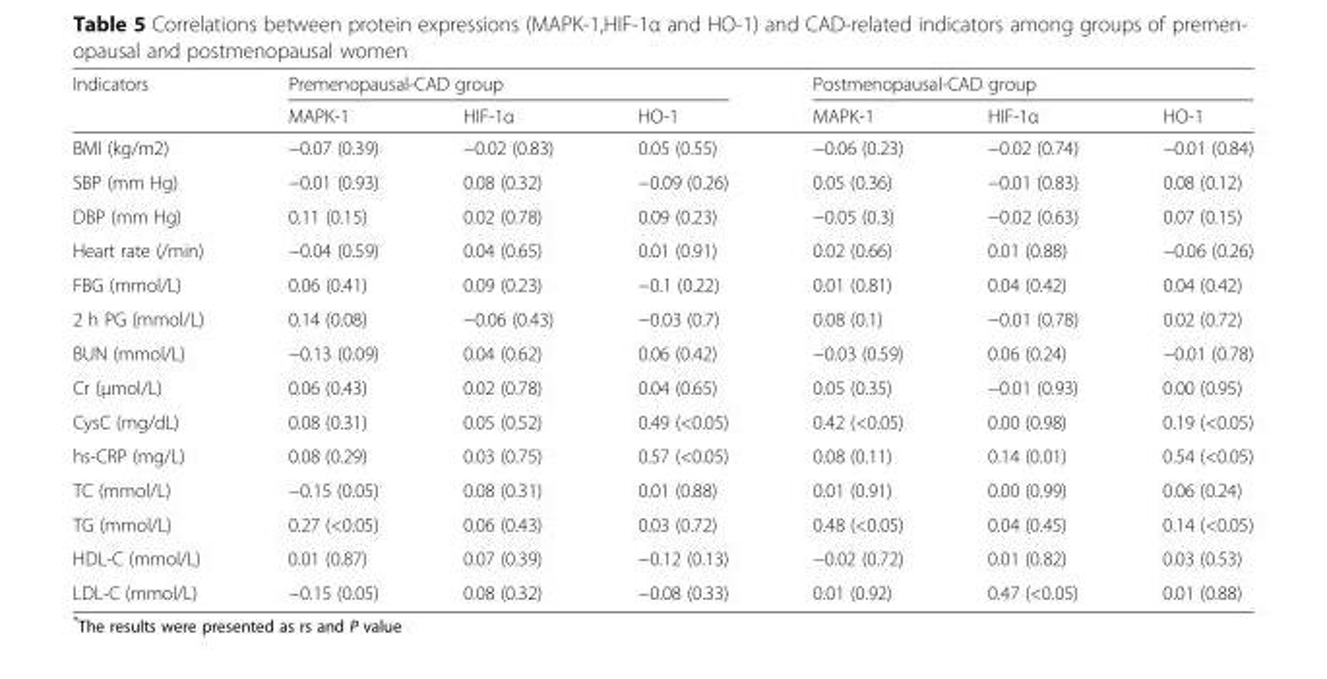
<table><thead><tr><td rowspan="2">Indicators</td><td colspan="3">Premenopausal-CAD group</td><td colspan="3">Postmenopausal-CAD group</td></tr><tr><td>MAPK-1</td><td>HIF-1α</td><td>HO-1</td><td>MAPK-1</td><td>HIF-1α</td><td>HO-1</td></tr></thead><tbody><tr><td>BMI (kg/m2)</td><td>−0.07 (0.39)</td><td>−0.02 (0.83)</td><td>0.05 (0.55)</td><td>−0.06 (0.23)</td><td>−0.02 (0.74)</td><td>−0.01 (0.84)</td></tr><tr><td>SBP (mm Hg)</td><td>−0.01 (0.93)</td><td>0.08 (0.32)</td><td>−0.09 (0.26)</td><td>0.05 (0.36)</td><td>−0.01 (0.83)</td><td>0.08 (0.12)</td></tr><tr><td>DBP (mm Hg)</td><td>0.11 (0.15)</td><td>0.02 (0.78)</td><td>0.09 (0.23)</td><td>−0.05 (0.3)</td><td>−0.02 (0.63)</td><td>0.07 (0.15)</td></tr><tr><td>Heart rate (/min)</td><td>−0.04 (0.59)</td><td>0.04 (0.65)</td><td>0.01 (0.91)</td><td>0.02 (0.66)</td><td>0.01 (0.88)</td><td>−0.06 (0.26)</td></tr><tr><td>FBG (mmol/L)</td><td>0.06 (0.41)</td><td>0.09 (0.23)</td><td>−0.1 (0.22)</td><td>0.01 (0.81)</td><td>0.04 (0.42)</td><td>0.04 (0.42)</td></tr><tr><td>2 h PG (mmol/L)</td><td>0.14 (0.08)</td><td>−0.06 (0.43)</td><td>−0.03 (0.7)</td><td>0.08 (0.1)</td><td>−0.01 (0.78)</td><td>0.02 (0.72)</td></tr><tr><td>BUN (mmol/L)</td><td>−0.13 (0.09)</td><td>0.04 (0.62)</td><td>0.06 (0.42)</td><td>−0.03 (0.59)</td><td>0.06 (0.24)</td><td>−0.01 (0.78)</td></tr><tr><td>Cr (μmol/L)</td><td>0.06 (0.43)</td><td>0.02 (0.78)</td><td>0.04 (0.65)</td><td>0.05 (0.35)</td><td>−0.01 (0.93)</td><td>0.00 (0.95)</td></tr><tr><td>CysC (mg/dL)</td><td>0.08 (0.31)</td><td>0.05 (0.52)</td><td>0.49 (&lt;0.05)</td><td>0.42 (&lt;0.05)</td><td>0.00 (0.98)</td><td>0.19 (&lt;0.05)</td></tr><tr><td>hs-CRP (mg/L)</td><td>0.08 (0.29)</td><td>0.03 (0.75)</td><td>0.57 (&lt;0.05)</td><td>0.08 (0.11)</td><td>0.14 (0.01)</td><td>0.54 (&lt;0.05)</td></tr><tr><td>TC (mmol/L)</td><td>−0.15 (0.05)</td><td>0.08 (0.31)</td><td>0.01 (0.88)</td><td>0.01 (0.91)</td><td>0.00 (0.99)</td><td>0.06 (0.24)</td></tr><tr><td>TG (mmol/L)</td><td>0.27 (&lt;0.05)</td><td>0.06 (0.43)</td><td>0.03 (0.72)</td><td>0.48 (&lt;0.05)</td><td>0.04 (0.45)</td><td>0.14 (&lt;0.05)</td></tr><tr><td>HDL-C (mmol/L)</td><td>0.01 (0.87)</td><td>0.07 (0.39)</td><td>−0.12 (0.13)</td><td>−0.02 (0.72)</td><td>0.01 (0.82)</td><td>0.03 (0.53)</td></tr><tr><td>LDL-C (mmol/L)</td><td>−0.15 (0.05)</td><td>0.08 (0.32)</td><td>−0.08 (0.33)</td><td>0.01 (0.92)</td><td>0.47 (&lt;0.05)</td><td>0.01 (0.88)</td></tr></tbody></table>